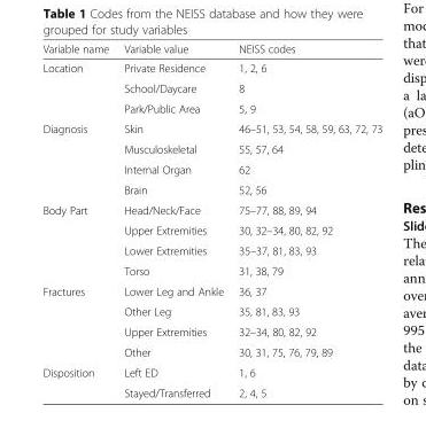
<table><thead><tr><td>Variable name</td><td>Variable value</td><td>NEISS codes</td></tr></thead><tbody><tr><td rowspan="3">Location</td><td>Private Residence</td><td>1, 2, 6</td></tr><tr><td>School/Daycare</td><td>8</td></tr><tr><td>Park/Public Area</td><td>5, 9</td></tr><tr><td rowspan="4">Diagnosis</td><td>Skin</td><td>46–51, 53, 54, 58, 59, 63, 72, 73</td></tr><tr><td>Musculoskeletal</td><td>55, 57, 64</td></tr><tr><td>Internal Organ</td><td>62</td></tr><tr><td>Brain</td><td>52, 56</td></tr><tr><td rowspan="4">Body Part</td><td>Head/Neck/Face</td><td>75–77, 88, 89, 94</td></tr><tr><td>Upper Extremities</td><td>30, 32–34, 80, 82, 92</td></tr><tr><td>Lower Extremities</td><td>35–37, 81, 83, 93</td></tr><tr><td>Torso</td><td>31, 38, 79</td></tr><tr><td rowspan="4">Fractures</td><td>Lower Leg and Ankle</td><td>36, 37</td></tr><tr><td>Other Leg</td><td>35, 81, 83, 93</td></tr><tr><td>Upper Extremities</td><td>32–34, 80, 82, 92</td></tr><tr><td>Other</td><td>30, 31, 75, 76, 79, 89</td></tr><tr><td rowspan="2">Disposition</td><td>Left ED</td><td>1, 6</td></tr><tr><td>Stayed/Transferred</td><td>2, 4, 5</td></tr></tbody></table>